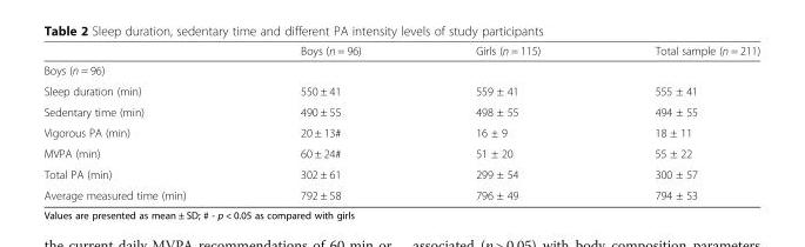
<table><thead><tr><td></td><td>Boys (n = 96)</td><td>Girls (n = 115)</td><td>Total sample (n = 211)</td></tr></thead><tbody><tr><td colspan="4">Boys (n = 96)</td></tr><tr><td>Sleep duration (min)</td><td>550 ± 41</td><td>559 ± 41</td><td>555 ± 41</td></tr><tr><td>Sedentary time (min)</td><td>490 ± 55</td><td>498 ± 55</td><td>494 ± 55</td></tr><tr><td>Vigorous PA (min)</td><td>20 ± 13#</td><td>16 ± 9</td><td>18 ± 11</td></tr><tr><td>MVPA (min)</td><td>60 ± 24#</td><td>51 ± 20</td><td>55 ± 22</td></tr><tr><td>Total PA (min)</td><td>302 ± 61</td><td>299 ± 54</td><td>300 ± 57</td></tr><tr><td>Average measured time (min)</td><td>792 ± 58</td><td>796 ± 49</td><td>794 ± 53</td></tr></tbody></table>